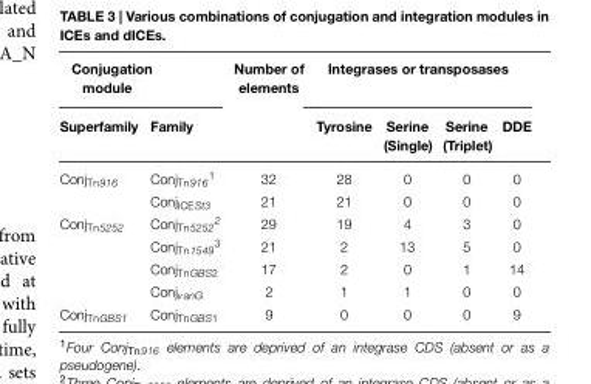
<table><thead><tr><td colspan="2">Conjugation module</td><td rowspan="2">Number of elements</td><td colspan="4">Integrases or transposases</td></tr><tr><td>Superfamily</td><td>Family</td><td>Tyrosine</td><td>Serine (Single)</td><td>Serine (Triplet)</td><td>DDE</td></tr></thead><tbody><tr><td rowspan="2">Conj<sub>Tn916</sub></td><td>Conj<sub>Tn916</sub><sup>1</sup></td><td>32</td><td>28</td><td>0</td><td>0</td><td>0</td></tr><tr><td>Conj<sub>ICESt3</sub></td><td>21</td><td>21</td><td>0</td><td>0</td><td>0</td></tr><tr><td rowspan="4">Conj<sub>Tn5252</sub></td><td>Conj<sub>Tn5252</sub><sup>2</sup></td><td>29</td><td>19</td><td>4</td><td>3</td><td>0</td></tr><tr><td>Conj<sub>Tn1549</sub><sup>3</sup></td><td>21</td><td>2</td><td>13</td><td>5</td><td>0</td></tr><tr><td>Conj<sub>TnGBS2</sub></td><td>17</td><td>2</td><td>0</td><td>1</td><td>14</td></tr><tr><td>Conj<sub>vanG</sub></td><td>2</td><td>1</td><td>1</td><td>0</td><td>0</td></tr><tr><td>Conj<sub>TnGBS1</sub></td><td>Conj<sub>TnGBS1</sub></td><td>9</td><td>0</td><td>0</td><td>0</td><td>9</td></tr></tbody></table>